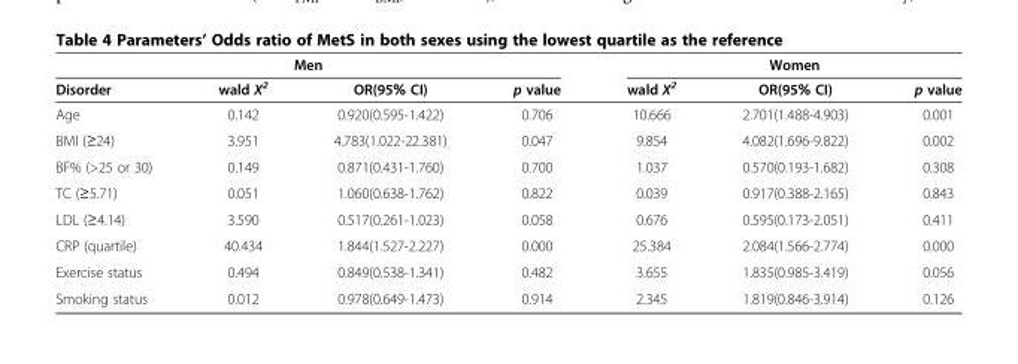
<table><thead><tr><td colspan="4">Men</td><td colspan="3">Women</td></tr><tr><td>Disorder</td><td>wald X<sup>2</sup></td><td>OR(95% CI)</td><td>p value</td><td>wald X<sup>2</sup></td><td>OR(95% CI)</td><td>p value</td></tr></thead><tbody><tr><td>Age</td><td>0.142</td><td>0.920(0.595-1.422)</td><td>0.706</td><td>10.666</td><td>2.701(1.488-4.903)</td><td>0.001</td></tr><tr><td>BMI (≥24)</td><td>3.951</td><td>4.783(1.022-22.381)</td><td>0.047</td><td>9.854</td><td>4.082(1.696-9.822)</td><td>0.002</td></tr><tr><td>BF% (&gt;25 or 30)</td><td>0.149</td><td>0.871(0.431-1.760)</td><td>0.700</td><td>1.037</td><td>0.570(0.193-1.682)</td><td>0.308</td></tr><tr><td>TC (≥5.71)</td><td>0.051</td><td>1.060(0.638-1.762)</td><td>0.822</td><td>0.039</td><td>0.917(0.388-2.165)</td><td>0.843</td></tr><tr><td>LDL (≥4.14)</td><td>3.590</td><td>0.517(0.261-1.023)</td><td>0.058</td><td>0.676</td><td>0.595(0.173-2.051)</td><td>0.411</td></tr><tr><td>CRP (quartile)</td><td>40.434</td><td>1.844(1.527-2.227)</td><td>0.000</td><td>25.384</td><td>2.084(1.566-2.774)</td><td>0.000</td></tr><tr><td>Exercise status</td><td>0.494</td><td>0.849(0.538-1.341)</td><td>0.482</td><td>3.655</td><td>1.835(0.985-3.419)</td><td>0.056</td></tr><tr><td>Smoking status</td><td>0.012</td><td>0.978(0.649-1.473)</td><td>0.914</td><td>2.345</td><td>1.819(0.846-3.914)</td><td>0.126</td></tr></tbody></table>